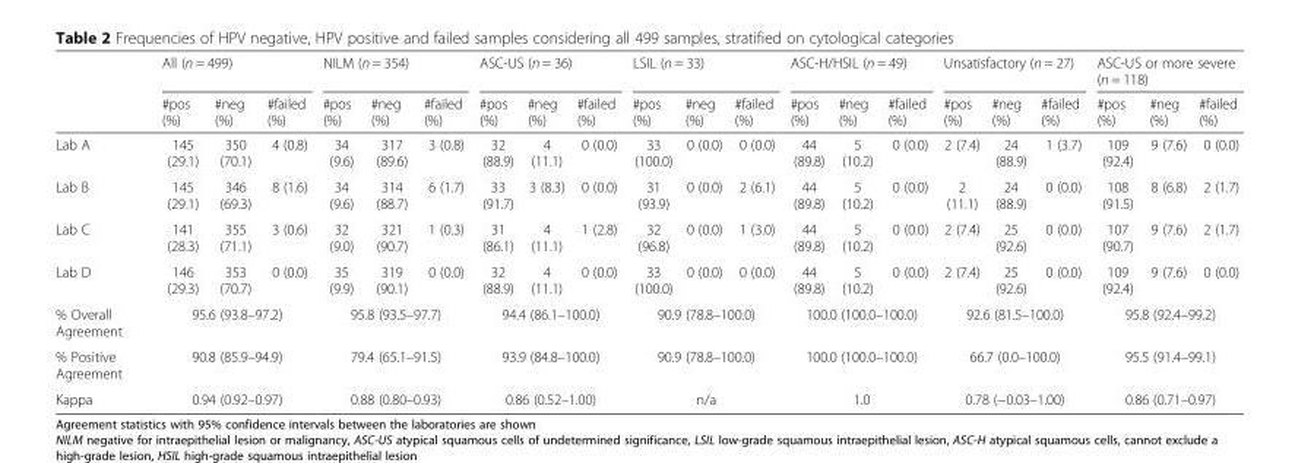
<table><thead><tr><td rowspan="2"></td><td colspan="3">All (n = 499)</td><td colspan="3">NILM (n = 354)</td><td colspan="3">ASC-US (n = 36)</td><td colspan="3">LSIL (n = 33)</td><td colspan="3">ASC-H/HSIL (n = 49)</td><td colspan="3">Unsatisfactory (n = 27)</td><td colspan="3">ASC-US or more severe (n = 118)</td></tr><tr><td>#pos (%)</td><td>#neg (%)</td><td>#failed (%)</td><td>#pos (%)</td><td>#neg (%)</td><td>#failed (%)</td><td>#pos (%)</td><td>#neg (%)</td><td>#failed (%)</td><td>#pos (%)</td><td>#neg (%)</td><td>#failed (%)</td><td>#pos (%)</td><td>#neg (%)</td><td>#failed (%)</td><td>#pos (%)</td><td>#neg (%)</td><td>#failed (%)</td><td>#pos (%)</td><td>#neg (%)</td><td>#failed (%)</td></tr></thead><tbody><tr><td>Lab A</td><td>145 (29.1)</td><td>350 (70.1)</td><td>4 (0.8)</td><td>34 (9.6)</td><td>317 (89.6)</td><td>3 (0.8)</td><td>32 (88.9)</td><td>4 (11.1)</td><td>0 (0.0)</td><td>33 (100.0)</td><td>0 (0.0)</td><td>0 (0.0)</td><td>44 (89.8)</td><td>5 (10.2)</td><td>0 (0.0)</td><td>2 (7.4)</td><td>24 (88.9)</td><td>1 (3.7)</td><td>109 (92.4)</td><td>9 (7.6)</td><td>0 (0.0)</td></tr><tr><td>Lab B</td><td>145 (29.1)</td><td>346 (69.3)</td><td>8 (1.6)</td><td>34 (9.6)</td><td>314 (88.7)</td><td>6 (1.7)</td><td>33 (91.7)</td><td>3 (8.3)</td><td>0 (0.0)</td><td>31 (93.9)</td><td>0 (0.0)</td><td>2 (6.1)</td><td>44 (89.8)</td><td>5 (10.2)</td><td>0 (0.0)</td><td>2 (11.1)</td><td>24 (88.9)</td><td>0 (0.0)</td><td>108 (91.5)</td><td>8 (6.8)</td><td>2 (1.7)</td></tr><tr><td>Lab C</td><td>141 (28.3)</td><td>355 (71.1)</td><td>3 (0.6)</td><td>32 (9.0)</td><td>321 (90.7)</td><td>1 (0.3)</td><td>31 (86.1)</td><td>4 (11.1)</td><td>1 (2.8)</td><td>32 (96.8)</td><td>0 (0.0)</td><td>1 (3.0)</td><td>44 (89.8)</td><td>5 (10.2)</td><td>0 (0.0)</td><td>2 (7.4)</td><td>25 (92.6)</td><td>0 (0.0)</td><td>107 (90.7)</td><td>9 (7.6)</td><td>2 (1.7)</td></tr><tr><td>Lab D</td><td>146 (29.3)</td><td>353 (70.7)</td><td>0 (0.0)</td><td>35 (9.9)</td><td>319 (90.1)</td><td>0 (0.0)</td><td>32 (88.9)</td><td>4 (11.1)</td><td>0 (0.0)</td><td>33 (100.0)</td><td>0 (0.0)</td><td>0 (0.0)</td><td>44 (89.8)</td><td>5 (10.2)</td><td>0 (0.0)</td><td>2 (7.4)</td><td>25 (92.6)</td><td>0 (0.0)</td><td>109 (92.4)</td><td>9 (7.6)</td><td>0 (0.0)</td></tr><tr><td>% Overall Agreement</td><td colspan="3">95.6 (93.8–97.2)</td><td colspan="3">95.8 (93.5–97.7)</td><td colspan="3">94.4 (86.1–100.0)</td><td colspan="3">90.9 (78.8–100.0)</td><td colspan="3">100.0 (100.0–100.0)</td><td colspan="3">92.6 (81.5–100.0)</td><td colspan="3">95.8 (92.4–99.2)</td></tr><tr><td>% Positive Agreement</td><td colspan="3">90.8 (85.9–94.9)</td><td colspan="3">79.4 (65.1–91.5)</td><td colspan="3">93.9 (84.8–100.0)</td><td colspan="3">90.9 (78.8–100.0)</td><td colspan="3">100.0 (100.0–100.0)</td><td colspan="3">66.7 (0.0–100.0)</td><td colspan="3">95.5 (91.4–99.1)</td></tr><tr><td>Kappa</td><td colspan="3">0.94 (0.92–0.97)</td><td colspan="3">0.88 (0.80–0.93)</td><td colspan="3">0.86 (0.52–1.00)</td><td colspan="3">n/a</td><td colspan="3">1.0</td><td colspan="3">0.78 (−0.03–1.00)</td><td colspan="3">0.86 (0.71–0.97)</td></tr></tbody></table>